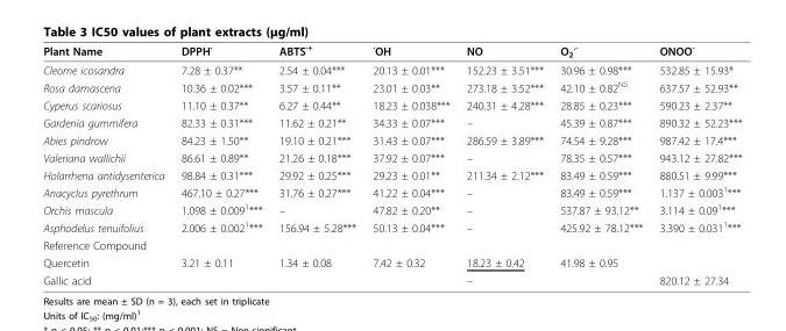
<table><thead><tr><td>Plant Name</td><td>DPPH<sup>·</sup></td><td>ABTS<sup>·+</sup></td><td><sup>·</sup>OH</td><td>NO</td><td>O<sub>2</sub> <sup>.-</sup></td><td>ONOO<sup>-</sup></td></tr></thead><tbody><tr><td>Cleome icosandra</td><td>7.28 ± 0.37**</td><td>2.54 ± 0.04***</td><td>20.13 ± 0.01***</td><td>152.23 ± 3.51***</td><td>30.96 ± 0.98***</td><td>532.85 ± 15.93*</td></tr><tr><td>Rosa damascena</td><td>10.36 ± 0.02***</td><td>3.57 ± 0.11**</td><td>23.01 ± 0.03**</td><td>273.18 ± 3.52***</td><td>42.10 ± 0.82<sup>NS</sup></td><td>637.57 ± 52.93**</td></tr><tr><td>Cyperus scariosus</td><td>11.10 ± 0.37**</td><td>6.27 ± 0.44**</td><td>18.23 ± 0.038***</td><td>240.31 ± 4.28***</td><td>28.85 ± 0.23***</td><td>590.23 ± 2.37**</td></tr><tr><td>Gardenia gummifera</td><td>82.33 ± 0.31***</td><td>11.62 ± 0.21**</td><td>34.33 ± 0.07***</td><td>–</td><td>45.39 ± 0.87***</td><td>890.32 ± 52.23***</td></tr><tr><td>Abies pindrow</td><td>84.23 ± 1.50**</td><td>19.10 ± 0.21***</td><td>31.43 ± 0.07***</td><td>286.59 ± 3.89***</td><td>74.54 ± 9.28***</td><td>987.42 ± 17.4***</td></tr><tr><td>Valeriana wallichii</td><td>86.61 ± 0.89**</td><td>21.26 ± 0.18***</td><td>37.92 ± 0.07***</td><td>–</td><td>78.35 ± 0.57***</td><td>943.12 ± 27.82***</td></tr><tr><td>Holarrhena antidysenterica</td><td>98.84 ± 0.31***</td><td>29.92 ± 0.25***</td><td>29.23 ± 0.01**</td><td>211.34 ± 2.12***</td><td>83.49 ± 0.59***</td><td>880.51 ± 9.99***</td></tr><tr><td>Anacyclus pyrethrum</td><td>467.10 ± 0.27***</td><td>31.76 ± 0.27***</td><td>41.22 ± 0.04***</td><td>–</td><td>83.49 ± 0.59***</td><td>1.137 ± 0.003<sup>1</sup>***</td></tr><tr><td>Orchis mascula</td><td>1.098 ± 0.009<sup>1</sup>***</td><td>–</td><td>47.82 ± 0.20**</td><td>–</td><td>537.87 ± 93.12**</td><td>3.114 ± 0.09<sup>1</sup>***</td></tr><tr><td>Asphodelus tenuifolius</td><td>2.006 ± 0.002<sup>1</sup>***</td><td>156.94 ± 5.28***</td><td>50.13 ± 0.04***</td><td>–</td><td>425.92 ± 78.12***</td><td>3.390 ± 0.031<sup>1</sup>***</td></tr><tr><td colspan="7">Reference Compound</td></tr><tr><td>Quercetin</td><td>3.21 ± 0.11</td><td>1.34 ± 0.08</td><td>7.42 ± 0.32</td><td>18.23 ± 0.42</td><td>41.98 ± 0.95</td><td></td></tr><tr><td>Gallic acid</td><td></td><td></td><td></td><td>–</td><td></td><td>820.12 ± 27.34</td></tr></tbody></table>